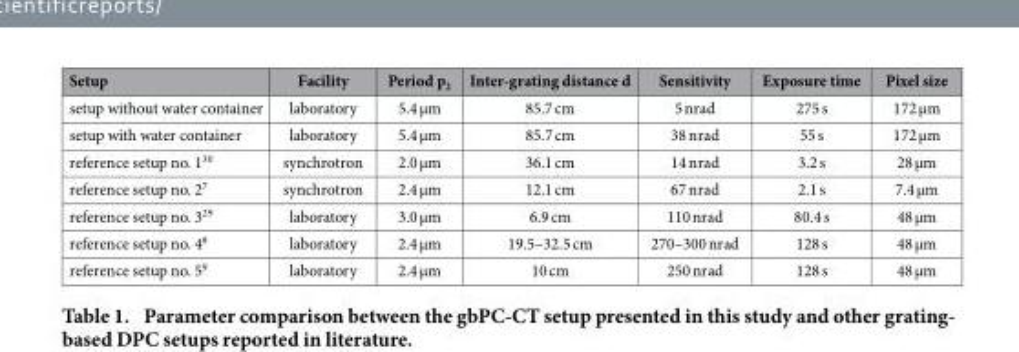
<table><thead><tr><td>Setup</td><td>Facility</td><td>Period p<sub>2</sub></td><td>Inter-grating distance d</td><td>Sensitivity</td><td>Exposure time</td><td>Pixel size</td></tr></thead><tbody><tr><td>setup without water container</td><td>laboratory</td><td>5.4 μm</td><td>85.7 cm</td><td>5 nrad</td><td>275 s</td><td>172 μm</td></tr><tr><td>setup with water container</td><td>laboratory</td><td>5.4 μm</td><td>85.7 cm</td><td>38 nrad</td><td>55 s</td><td>172 μm</td></tr><tr><td>reference setup no. 1<sup>30</sup></td><td>synchrotron</td><td>2.0 μm</td><td>36.1 cm</td><td>14 nrad</td><td>3.2 s</td><td>28 μm</td></tr><tr><td>reference setup no. 2<sup>7</sup></td><td>synchrotron</td><td>2.4 μm</td><td>12.1 cm</td><td>67 nrad</td><td>2.1 s</td><td>7.4 μm</td></tr><tr><td>reference setup no. 3<sup>29</sup></td><td>laboratory</td><td>3.0 μm</td><td>6.9 cm</td><td>110 nrad</td><td>80.4 s</td><td>48 μm</td></tr><tr><td>reference setup no. 4<sup>8</sup></td><td>laboratory</td><td>2.4 μm</td><td>19.5–32.5 cm</td><td>270–300 nrad</td><td>128 s</td><td>48 μm</td></tr><tr><td>reference setup no. 5<sup>9</sup></td><td>laboratory</td><td>2.4 μm</td><td>10 cm</td><td>250 nrad</td><td>128 s</td><td>48 μm</td></tr></tbody></table>